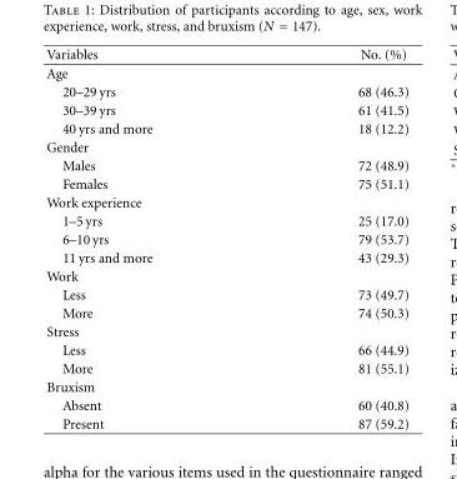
<table><thead><tr><td>Variables</td><td>No. (%)</td></tr></thead><tbody><tr><td colspan="2">Age</td></tr><tr><td>20–29 yrs</td><td>68 (46.3)</td></tr><tr><td>30–39 yrs</td><td>61 (41.5)</td></tr><tr><td>40 yrs and more</td><td>18 (12.2)</td></tr><tr><td colspan="2">Gender</td></tr><tr><td>Males</td><td>72 (48.9)</td></tr><tr><td>Females</td><td>75 (51.1)</td></tr><tr><td colspan="2">Work experience</td></tr><tr><td>1–5 yrs</td><td>25 (17.0)</td></tr><tr><td>6–10 yrs</td><td>79 (53.7)</td></tr><tr><td>11 yrs and more</td><td>43 (29.3)</td></tr><tr><td colspan="2">Work</td></tr><tr><td>Less</td><td>73 (49.7)</td></tr><tr><td>More</td><td>74 (50.3)</td></tr><tr><td colspan="2">Stress</td></tr><tr><td>Less</td><td>66 (44.9)</td></tr><tr><td>More</td><td>81 (55.1)</td></tr><tr><td colspan="2">Bruxism</td></tr><tr><td>Absent</td><td>60 (40.8)</td></tr><tr><td>Present</td><td>87 (59.2)</td></tr></tbody></table>